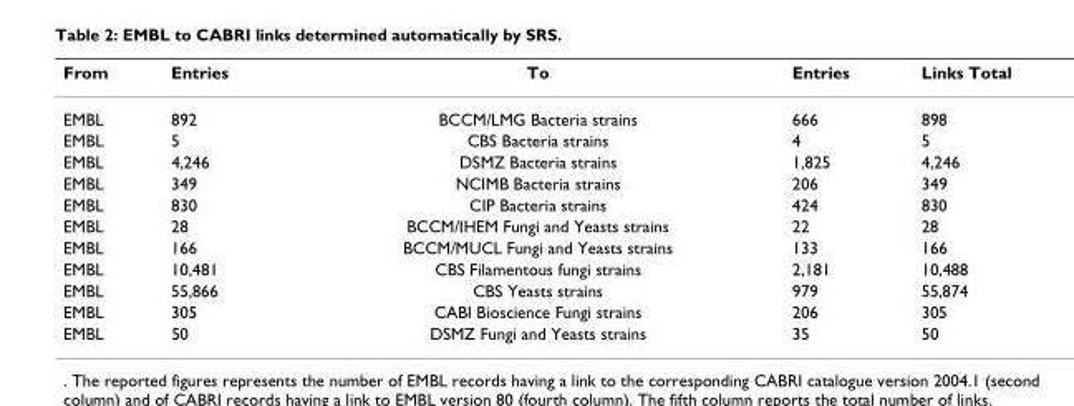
<table><thead><tr><td>From</td><td>Entries</td><td>To</td><td>Entries</td><td>Links Total</td></tr></thead><tbody><tr><td>EMBL</td><td>892</td><td>BCCM/LMG Bacteria strains</td><td>666</td><td>898</td></tr><tr><td>EMBL</td><td>5</td><td>CBS Bacteria strains</td><td>4</td><td>5</td></tr><tr><td>EMBL</td><td>4,246</td><td>DSMZ Bacteria strains</td><td>1,825</td><td>4,246</td></tr><tr><td>EMBL</td><td>349</td><td>NCIMB Bacteria strains</td><td>206</td><td>349</td></tr><tr><td>EMBL</td><td>830</td><td>CIP Bacteria strains</td><td>424</td><td>830</td></tr><tr><td>EMBL</td><td>28</td><td>BCCM/IHEM Fungi and Yeasts strains</td><td>22</td><td>28</td></tr><tr><td>EMBL</td><td>166</td><td>BCCM/MUCL Fungi and Yeasts strains</td><td>133</td><td>166</td></tr><tr><td>EMBL</td><td>10,481</td><td>CBS Filamentous fungi strains</td><td>2,181</td><td>10,488</td></tr><tr><td>EMBL</td><td>55,866</td><td>CBS Yeasts strains</td><td>979</td><td>55,874</td></tr><tr><td>EMBL</td><td>305</td><td>CABI Bioscience Fungi strains</td><td>206</td><td>305</td></tr><tr><td>EMBL</td><td>50</td><td>DSMZ Fungi and Yeasts strains</td><td>35</td><td>50</td></tr></tbody></table>